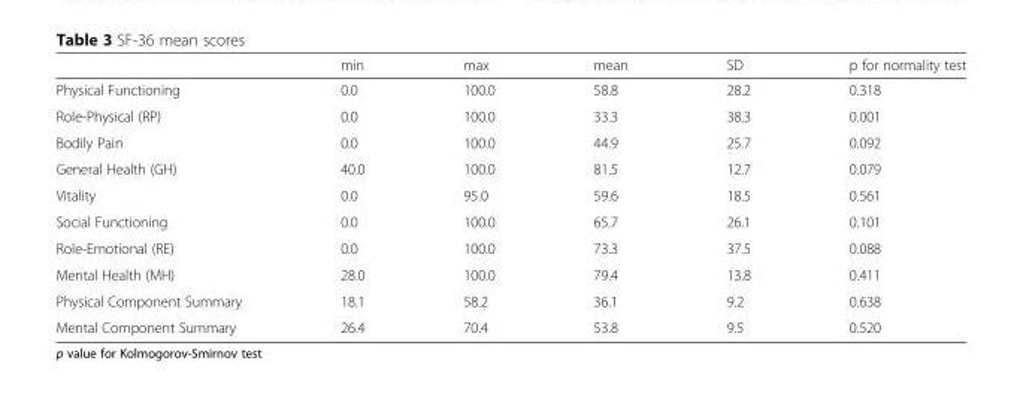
<table><thead><tr><td></td><td>min</td><td>max</td><td>mean</td><td>SD</td><td>p for normality test</td></tr></thead><tbody><tr><td>Physical Functioning</td><td>0.0</td><td>100.0</td><td>58.8</td><td>28.2</td><td>0.318</td></tr><tr><td>Role-Physical (RP)</td><td>0.0</td><td>100.0</td><td>33.3</td><td>38.3</td><td>0.001</td></tr><tr><td>Bodily Pain</td><td>0.0</td><td>100.0</td><td>44.9</td><td>25.7</td><td>0.092</td></tr><tr><td>General Health (GH)</td><td>40.0</td><td>100.0</td><td>81.5</td><td>12.7</td><td>0.079</td></tr><tr><td>Vitality</td><td>0.0</td><td>95.0</td><td>59.6</td><td>18.5</td><td>0.561</td></tr><tr><td>Social Functioning</td><td>0.0</td><td>100.0</td><td>65.7</td><td>26.1</td><td>0.101</td></tr><tr><td>Role-Emotional (RE)</td><td>0.0</td><td>100.0</td><td>73.3</td><td>37.5</td><td>0.088</td></tr><tr><td>Mental Health (MH)</td><td>28.0</td><td>100.0</td><td>79.4</td><td>13.8</td><td>0.411</td></tr><tr><td>Physical Component Summary</td><td>18.1</td><td>58.2</td><td>36.1</td><td>9.2</td><td>0.638</td></tr><tr><td>Mental Component Summary</td><td>26.4</td><td>70.4</td><td>53.8</td><td>9.5</td><td>0.520</td></tr></tbody></table>